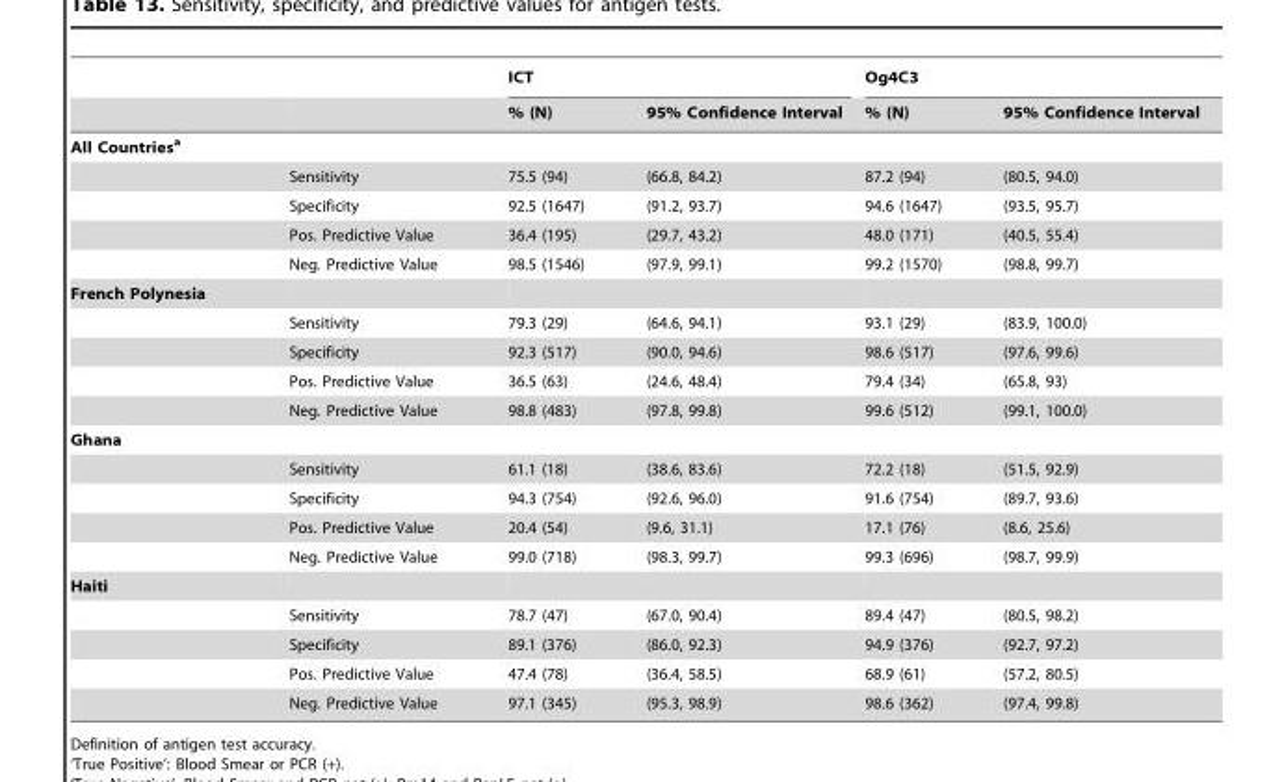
<table><thead><tr><td rowspan="2"></td><td rowspan="2"></td><td colspan="2">ICT</td><td colspan="2">Og4C3</td></tr><tr><td>% (N)</td><td>95% Confidence Interval</td><td>% (N)</td><td>95% Confidence Interval</td></tr></thead><tbody><tr><td colspan="6">All Countriesa</td></tr><tr><td></td><td>Sensitivity</td><td>75.5 (94)</td><td>(66.8, 84.2)</td><td>87.2 (94)</td><td>(80.5, 94.0)</td></tr><tr><td></td><td>Specificity</td><td>92.5 (1647)</td><td>(91.2, 93.7)</td><td>94.6 (1647)</td><td>(93.5, 95.7)</td></tr><tr><td></td><td>Pos. Predictive Value</td><td>36.4 (195)</td><td>(29.7, 43.2)</td><td>48.0 (171)</td><td>(40.5, 55.4)</td></tr><tr><td></td><td>Neg. Predictive Value</td><td>98.5 (1546)</td><td>(97.9, 99.1)</td><td>99.2 (1570)</td><td>(98.8, 99.7)</td></tr><tr><td colspan="6">French Polynesia</td></tr><tr><td></td><td>Sensitivity</td><td>79.3 (29)</td><td>(64.6, 94.1)</td><td>93.1 (29)</td><td>(83.9, 100.0)</td></tr><tr><td></td><td>Specificity</td><td>92.3 (517)</td><td>(90.0, 94.6)</td><td>98.6 (517)</td><td>(97.6, 99.6)</td></tr><tr><td></td><td>Pos. Predictive Value</td><td>36.5 (63)</td><td>(24.6, 48.4)</td><td>79.4 (34)</td><td>(65.8, 93)</td></tr><tr><td></td><td>Neg. Predictive Value</td><td>98.8 (483)</td><td>(97.8, 99.8)</td><td>99.6 (512)</td><td>(99.1, 100.0)</td></tr><tr><td colspan="6">Ghana</td></tr><tr><td></td><td>Sensitivity</td><td>61.1 (18)</td><td>(38.6, 83.6)</td><td>72.2 (18)</td><td>(51.5, 92.9)</td></tr><tr><td></td><td>Specificity</td><td>94.3 (754)</td><td>(92.6, 96.0)</td><td>91.6 (754)</td><td>(89.7, 93.6)</td></tr><tr><td></td><td>Pos. Predictive Value</td><td>20.4 (54)</td><td>(9.6, 31.1)</td><td>17.1 (76)</td><td>(8.6, 25.6)</td></tr><tr><td></td><td>Neg. Predictive Value</td><td>99.0 (718)</td><td>(98.3, 99.7)</td><td>99.3 (696)</td><td>(98.7, 99.9)</td></tr><tr><td colspan="6">Haiti</td></tr><tr><td></td><td>Sensitivity</td><td>78.7 (47)</td><td>(67.0, 90.4)</td><td>89.4 (47)</td><td>(80.5, 98.2)</td></tr><tr><td></td><td>Specificity</td><td>89.1 (376)</td><td>(86.0, 92.3)</td><td>94.9 (376)</td><td>(92.7, 97.2)</td></tr><tr><td></td><td>Pos. Predictive Value</td><td>47.4 (78)</td><td>(36.4, 58.5)</td><td>68.9 (61)</td><td>(57.2, 80.5)</td></tr><tr><td></td><td>Neg. Predictive Value</td><td>97.1 (345)</td><td>(95.3, 98.9)</td><td>98.6 (362)</td><td>(97.4, 99.8)</td></tr></tbody></table>